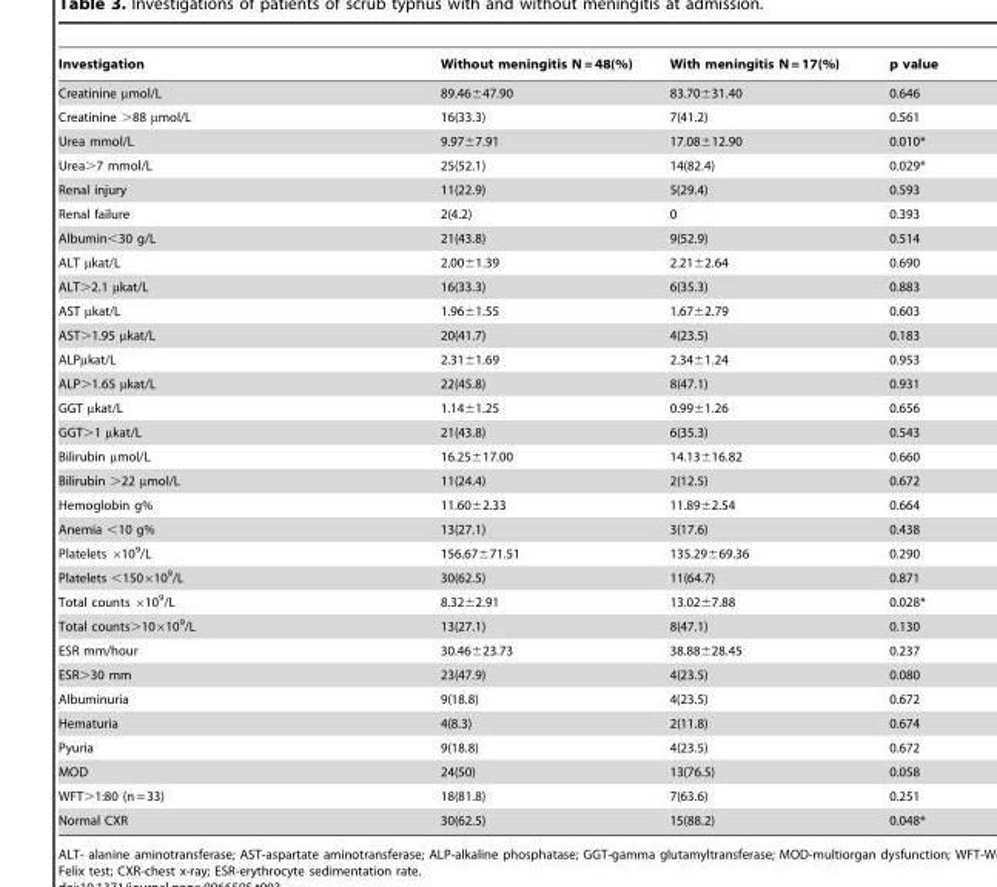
<table><thead><tr><td>Investigation</td><td>Without meningitis N = 48(%)</td><td>With meningitis N = 17(%)</td><td>p value</td></tr></thead><tbody><tr><td>Creatinine µmol/L</td><td>89.46±47.90</td><td>83.70±31.40</td><td>0.646</td></tr><tr><td>Creatinine &gt;88 µmol/L</td><td>16(33.3)</td><td>7(41.2)</td><td>0.561</td></tr><tr><td>Urea mmol/L</td><td>9.97±7.91</td><td>17.08±12.90</td><td>0.010*</td></tr><tr><td>Urea&gt;7 mmol/L</td><td>25(52.1)</td><td>14(82.4)</td><td>0.029*</td></tr><tr><td>Renal injury</td><td>11(22.9)</td><td>5(29.4)</td><td>0.593</td></tr><tr><td>Renal failure</td><td>2(4.2)</td><td>0</td><td>0.393</td></tr><tr><td>Albumin&lt;30 g/L</td><td>21(43.8)</td><td>9(52.9)</td><td>0.514</td></tr><tr><td>ALT µkat/L</td><td>2.00±1.39</td><td>2.21±2.64</td><td>0.690</td></tr><tr><td>ALT&gt;2.1 µkat/L</td><td>16(33.3)</td><td>6(35.3)</td><td>0.883</td></tr><tr><td>AST µkat/L</td><td>1.96±1.55</td><td>1.67±2.79</td><td>0.603</td></tr><tr><td>AST&gt;1.95 µkat/L</td><td>20(41.7)</td><td>4(23.5)</td><td>0.183</td></tr><tr><td>ALPµkat/L</td><td>2.31±1.69</td><td>2.34±1.24</td><td>0.953</td></tr><tr><td>ALP&gt;1.65 µkat/L</td><td>22(45.8)</td><td>8(47.1)</td><td>0.931</td></tr><tr><td>GGT µkat/L</td><td>1.14±1.25</td><td>0.99±1.26</td><td>0.656</td></tr><tr><td>GGT&gt;1 µkat/L</td><td>21(43.8)</td><td>6(35.3)</td><td>0.543</td></tr><tr><td>Bilirubin µmol/L</td><td>16.25±17.00</td><td>14.13±16.82</td><td>0.660</td></tr><tr><td>Bilirubin &gt;22 µmol/L</td><td>11(24.4)</td><td>2(12.5)</td><td>0.672</td></tr><tr><td>Hemoglobin g%</td><td>11.60±2.33</td><td>11.89±2.54</td><td>0.664</td></tr><tr><td>Anemia &lt;10 g%</td><td>13(27.1)</td><td>3(17.6)</td><td>0.438</td></tr><tr><td>Platelets ×10<sup>9</sup>/L</td><td>156.67±71.51</td><td>135.29±69.36</td><td>0.290</td></tr><tr><td>Platelets &lt;150×10<sup>9</sup>/L</td><td>30(62.5)</td><td>11(64.7)</td><td>0.871</td></tr><tr><td>Total counts ×10<sup>9</sup>/L</td><td>8.32±2.91</td><td>13.02±7.88</td><td>0.028*</td></tr><tr><td>Total counts&gt;10×10<sup>9</sup>/L</td><td>13(27.1)</td><td>8(47.1)</td><td>0.130</td></tr><tr><td>ESR mm/hour</td><td>30.46±23.73</td><td>38.88±28.45</td><td>0.237</td></tr><tr><td>ESR&gt;30 mm</td><td>23(47.9)</td><td>4(23.5)</td><td>0.080</td></tr><tr><td>Albuminuria</td><td>9(18.8)</td><td>4(23.5)</td><td>0.672</td></tr><tr><td>Hematuria</td><td>4(8.3)</td><td>2(11.8)</td><td>0.674</td></tr><tr><td>Pyuria</td><td>9(18.8)</td><td>4(23.5)</td><td>0.672</td></tr><tr><td>MOD</td><td>24(50)</td><td>13(76.5)</td><td>0.058</td></tr><tr><td>WFT&gt;1:80 (n = 33)</td><td>18(81.8)</td><td>7(63.6)</td><td>0.251</td></tr><tr><td>Normal CXR</td><td>30(62.5)</td><td>15(88.2)</td><td>0.048*</td></tr></tbody></table>